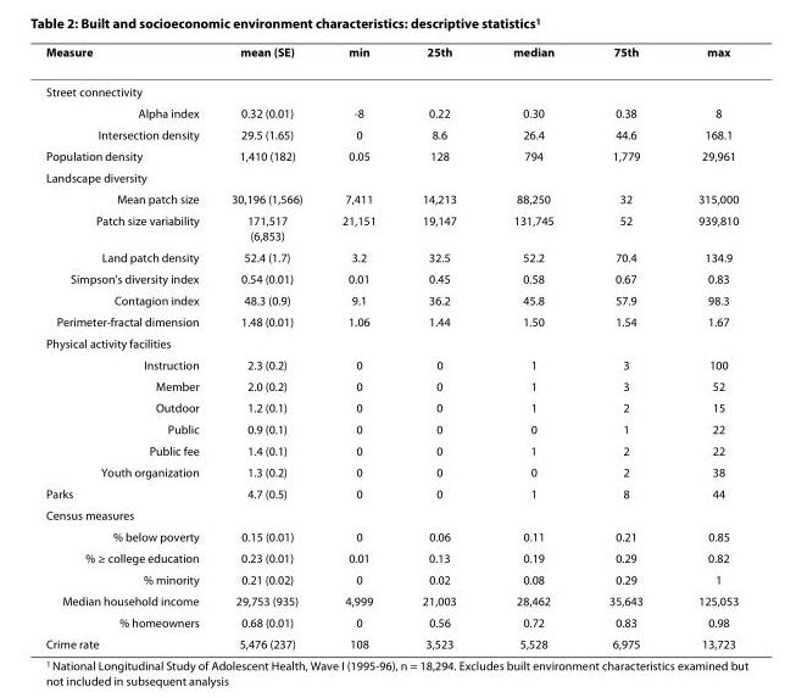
<table><thead><tr><td>Measure</td><td>mean (SE)</td><td>min</td><td>25th</td><td>median</td><td>75th</td><td>max</td></tr></thead><tbody><tr><td colspan="7">Street connectivity</td></tr><tr><td>Alpha index</td><td>0.32 (0.01)</td><td>-8</td><td>0.22</td><td>0.30</td><td>0.38</td><td>8</td></tr><tr><td>Intersection density</td><td>29.5 (1.65)</td><td>0</td><td>8.6</td><td>26.4</td><td>44.6</td><td>168.1</td></tr><tr><td>Population density</td><td>1,410 (182)</td><td>0.05</td><td>128</td><td>794</td><td>1,779</td><td>29,961</td></tr><tr><td colspan="7">Landscape diversity</td></tr><tr><td>Mean patch size</td><td>30,196 (1,566)</td><td>7,411</td><td>14,213</td><td>88,250</td><td>32</td><td>315,000</td></tr><tr><td>Patch size variability</td><td>171,517 (6,853)</td><td>21,151</td><td>19,147</td><td>131,745</td><td>52</td><td>939,810</td></tr><tr><td>Land patch density</td><td>52.4 (1.7)</td><td>3.2</td><td>32.5</td><td>52.2</td><td>70.4</td><td>134.9</td></tr><tr><td>Simpson&#x27;s diversity index</td><td>0.54 (0.01)</td><td>0.01</td><td>0.45</td><td>0.58</td><td>0.67</td><td>0.83</td></tr><tr><td>Contagion index</td><td>48.3 (0.9)</td><td>9.1</td><td>36.2</td><td>45.8</td><td>57.9</td><td>98.3</td></tr><tr><td>Perimeter-fractal dimension</td><td>1.48 (0.01)</td><td>1.06</td><td>1.44</td><td>1.50</td><td>1.54</td><td>1.67</td></tr><tr><td colspan="7">Physical activity facilities</td></tr><tr><td>Instruction</td><td>2.3 (0.2)</td><td>0</td><td>0</td><td>1</td><td>3</td><td>100</td></tr><tr><td>Member</td><td>2.0 (0.2)</td><td>0</td><td>0</td><td>1</td><td>3</td><td>52</td></tr><tr><td>Outdoor</td><td>1.2 (0.1)</td><td>0</td><td>0</td><td>1</td><td>2</td><td>15</td></tr><tr><td>Public</td><td>0.9 (0.1)</td><td>0</td><td>0</td><td>0</td><td>1</td><td>22</td></tr><tr><td>Public fee</td><td>1.4 (0.1)</td><td>0</td><td>0</td><td>1</td><td>2</td><td>22</td></tr><tr><td>Youth organization</td><td>1.3 (0.2)</td><td>0</td><td>0</td><td>0</td><td>2</td><td>38</td></tr><tr><td>Parks</td><td>4.7 (0.5)</td><td>0</td><td>0</td><td>1</td><td>8</td><td>44</td></tr><tr><td colspan="7">Census measures</td></tr><tr><td>% below poverty</td><td>0.15 (0.01)</td><td>0</td><td>0.06</td><td>0.11</td><td>0.21</td><td>0.85</td></tr><tr><td>% ≥ college education</td><td>0.23 (0.01)</td><td>0.01</td><td>0.13</td><td>0.19</td><td>0.29</td><td>0.82</td></tr><tr><td>% minority</td><td>0.21 (0.02)</td><td>0</td><td>0.02</td><td>0.08</td><td>0.29</td><td>1</td></tr><tr><td>Median household income</td><td>29,753 (935)</td><td>4,999</td><td>21,003</td><td>28,462</td><td>35,643</td><td>125,053</td></tr><tr><td>% homeowners</td><td>0.68 (0.01)</td><td>0</td><td>0.56</td><td>0.72</td><td>0.83</td><td>0.98</td></tr><tr><td>Crime rate</td><td>5,476 (237)</td><td>108</td><td>3,523</td><td>5,528</td><td>6,975</td><td>13,723</td></tr></tbody></table>